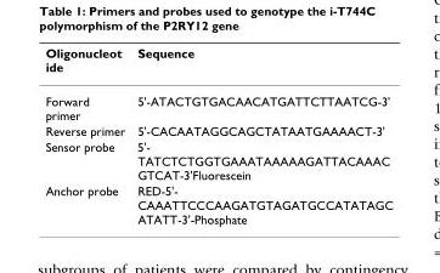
<table><thead><tr><td>Oligonucleot ide</td><td>Sequence</td></tr></thead><tbody><tr><td>Forward primer</td><td>5&#x27;-ATACTGTGACAACATGATTCTTAATCG-3&#x27;</td></tr><tr><td>Reverse primer</td><td>5&#x27;-CACAATAGGCAGCTATAATGAAAACT-3&#x27;</td></tr><tr><td>Sensor probe</td><td>5&#x27;- TATCTCTGGTGAAATAAAAAGATTACAAAC GTCAT-3&#x27;Fluorescein</td></tr><tr><td>Anchor probe</td><td>RED-5&#x27;- CAAATTCCCAAGATGTAGATGCCATATAGC ATATT-3&#x27;-Phosphate</td></tr></tbody></table>